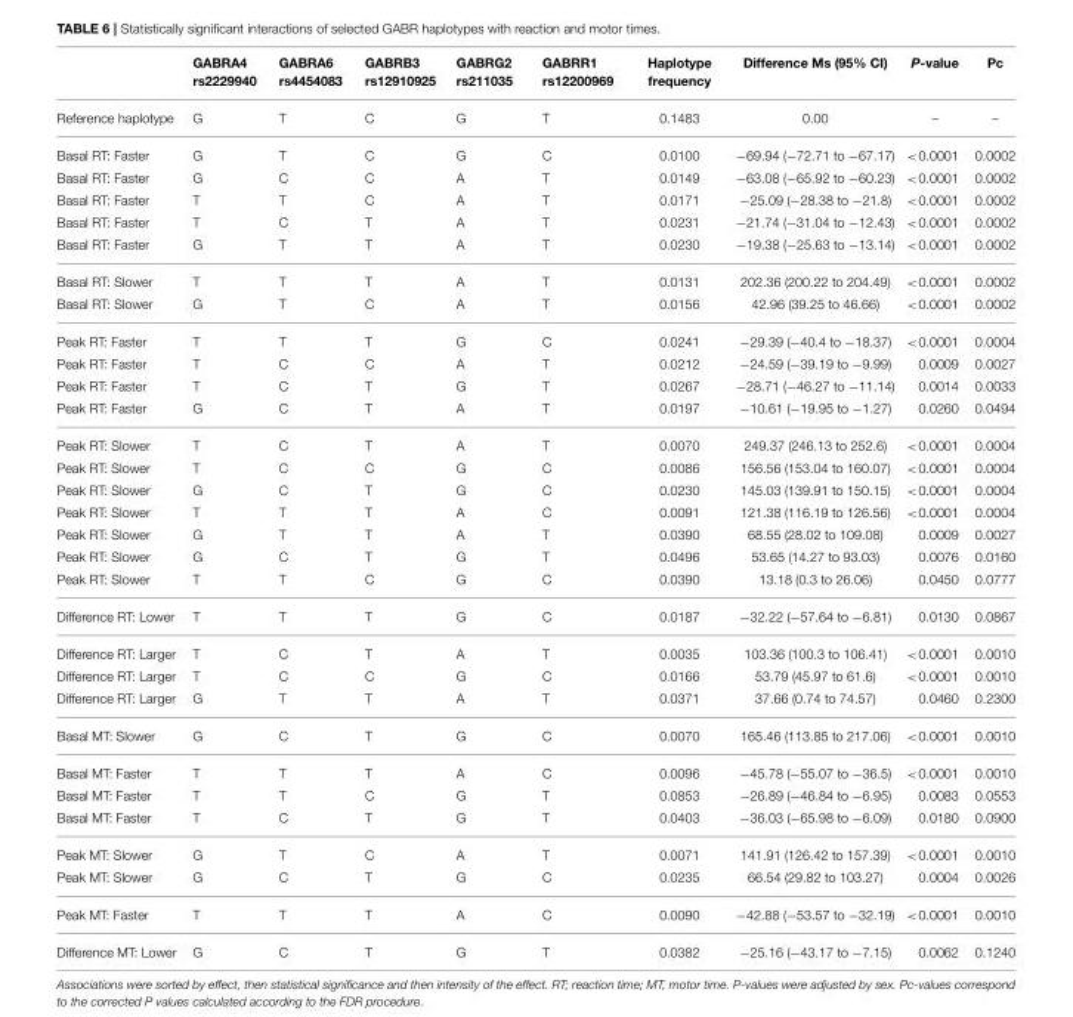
<table><thead><tr><td></td><td>GABRA4 rs2229940</td><td>GABRA6 rs4454083</td><td>GABRB3 rs12910925</td><td>GABRG2 rs211035</td><td>GABRR1 rs12200969</td><td>Haplotype frequency</td><td>Difference Ms (95% CI)</td><td>P-value</td><td>Pc</td></tr></thead><tbody><tr><td>Reference haplotype</td><td>G</td><td>T</td><td>C</td><td>G</td><td>T</td><td>0.1483</td><td>0.00</td><td>–</td><td>–</td></tr><tr><td>Basal RT: Faster</td><td>G</td><td>T</td><td>C</td><td>G</td><td>C</td><td>0.0100</td><td>−69.94 (−72.71 to −67.17)</td><td>&lt;0.0001</td><td>0.0002</td></tr><tr><td>Basal RT: Faster</td><td>G</td><td>C</td><td>C</td><td>A</td><td>T</td><td>0.0149</td><td>−63.08 (−65.92 to −60.23)</td><td>&lt;0.0001</td><td>0.0002</td></tr><tr><td>Basal RT: Faster</td><td>T</td><td>T</td><td>C</td><td>A</td><td>T</td><td>0.0171</td><td>−25.09 (−28.38 to −21.8)</td><td>&lt;0.0001</td><td>0.0002</td></tr><tr><td>Basal RT: Faster</td><td>T</td><td>C</td><td>T</td><td>A</td><td>T</td><td>0.0231</td><td>−21.74 (−31.04 to −12.43)</td><td>&lt;0.0001</td><td>0.0002</td></tr><tr><td>Basal RT: Faster</td><td>G</td><td>T</td><td>T</td><td>A</td><td>T</td><td>0.0230</td><td>−19.38 (−25.63 to −13.14)</td><td>&lt;0.0001</td><td>0.0002</td></tr><tr><td>Basal RT: Slower</td><td>T</td><td>T</td><td>T</td><td>A</td><td>T</td><td>0.0131</td><td>202.36 (200.22 to 204.49)</td><td>&lt;0.0001</td><td>0.0002</td></tr><tr><td>Basal RT: Slower</td><td>G</td><td>T</td><td>C</td><td>A</td><td>T</td><td>0.0156</td><td>42.96 (39.25 to 46.66)</td><td>&lt;0.0001</td><td>0.0002</td></tr><tr><td>Peak RT: Faster</td><td>T</td><td>T</td><td>T</td><td>G</td><td>C</td><td>0.0241</td><td>−29.39 (−40.4 to −18.37)</td><td>&lt;0.0001</td><td>0.0004</td></tr><tr><td>Peak RT: Faster</td><td>T</td><td>C</td><td>C</td><td>A</td><td>T</td><td>0.0212</td><td>−24.59 (−39.19 to −9.99)</td><td>0.0009</td><td>0.0027</td></tr><tr><td>Peak RT: Faster</td><td>T</td><td>C</td><td>T</td><td>G</td><td>T</td><td>0.0267</td><td>−28.71 (−46.27 to −11.14)</td><td>0.0014</td><td>0.0033</td></tr><tr><td>Peak RT: Faster</td><td>G</td><td>C</td><td>T</td><td>A</td><td>T</td><td>0.0197</td><td>−10.61 (−19.95 to −1.27)</td><td>0.0260</td><td>0.0494</td></tr><tr><td>Peak RT: Slower</td><td>T</td><td>C</td><td>T</td><td>A</td><td>T</td><td>0.0070</td><td>249.37 (246.13 to 252.6)</td><td>&lt;0.0001</td><td>0.0004</td></tr><tr><td>Peak RT: Slower</td><td>T</td><td>C</td><td>C</td><td>G</td><td>C</td><td>0.0086</td><td>156.56 (153.04 to 160.07)</td><td>&lt;0.0001</td><td>0.0004</td></tr><tr><td>Peak RT: Slower</td><td>G</td><td>C</td><td>T</td><td>G</td><td>C</td><td>0.0230</td><td>145.03 (139.91 to 150.15)</td><td>&lt;0.0001</td><td>0.0004</td></tr><tr><td>Peak RT: Slower</td><td>T</td><td>T</td><td>T</td><td>A</td><td>C</td><td>0.0091</td><td>121.38 (116.19 to 126.56)</td><td>&lt;0.0001</td><td>0.0004</td></tr><tr><td>Peak RT: Slower</td><td>G</td><td>T</td><td>T</td><td>A</td><td>T</td><td>0.0390</td><td>68.55 (28.02 to 109.08)</td><td>0.0009</td><td>0.0027</td></tr><tr><td>Peak RT: Slower</td><td>G</td><td>C</td><td>T</td><td>G</td><td>T</td><td>0.0496</td><td>53.65 (14.27 to 93.03)</td><td>0.0076</td><td>0.0160</td></tr><tr><td>Peak RT: Slower</td><td>T</td><td>T</td><td>C</td><td>G</td><td>C</td><td>0.0390</td><td>13.18 (0.3 to 26.06)</td><td>0.0450</td><td>0.0777</td></tr><tr><td>Difference RT: Lower</td><td>T</td><td>T</td><td>T</td><td>G</td><td>C</td><td>0.0187</td><td>−32.22 (−57.64 to −6.81)</td><td>0.0130</td><td>0.0867</td></tr><tr><td>Difference RT: Larger</td><td>T</td><td>C</td><td>T</td><td>A</td><td>T</td><td>0.0035</td><td>103.36 (100.3 to 106.41)</td><td>&lt;0.0001</td><td>0.0010</td></tr><tr><td>Difference RT: Larger</td><td>T</td><td>C</td><td>C</td><td>G</td><td>C</td><td>0.0166</td><td>53.79 (45.97 to 61.6)</td><td>&lt;0.0001</td><td>0.0010</td></tr><tr><td>Difference RT: Larger</td><td>G</td><td>T</td><td>T</td><td>A</td><td>T</td><td>0.0371</td><td>37.66 (0.74 to 74.57)</td><td>0.0460</td><td>0.2300</td></tr><tr><td>Basal MT: Slower</td><td>G</td><td>C</td><td>T</td><td>G</td><td>C</td><td>0.0070</td><td>165.46 (113.85 to 217.06)</td><td>&lt;0.0001</td><td>0.0010</td></tr><tr><td>Basal MT: Faster</td><td>T</td><td>T</td><td>T</td><td>A</td><td>C</td><td>0.0096</td><td>−45.78 (−55.07 to −36.5)</td><td>&lt;0.0001</td><td>0.0010</td></tr><tr><td>Basal MT: Faster</td><td>T</td><td>T</td><td>C</td><td>G</td><td>T</td><td>0.0853</td><td>−26.89 (−46.84 to −6.95)</td><td>0.0083</td><td>0.0553</td></tr><tr><td>Basal MT: Faster</td><td>T</td><td>C</td><td>T</td><td>G</td><td>T</td><td>0.0403</td><td>−36.03 (−65.98 to −6.09)</td><td>0.0180</td><td>0.0900</td></tr><tr><td>Peak MT: Slower</td><td>G</td><td>T</td><td>C</td><td>A</td><td>T</td><td>0.0071</td><td>141.91 (126.42 to 157.39)</td><td>&lt;0.0001</td><td>0.0010</td></tr><tr><td>Peak MT: Slower</td><td>G</td><td>C</td><td>T</td><td>G</td><td>C</td><td>0.0235</td><td>66.54 (29.82 to 103.27)</td><td>0.0004</td><td>0.0026</td></tr><tr><td>Peak MT: Faster</td><td>T</td><td>T</td><td>T</td><td>A</td><td>C</td><td>0.0090</td><td>−42.88 (−53.57 to −32.19)</td><td>&lt;0.0001</td><td>0.0010</td></tr><tr><td>Difference MT: Lower</td><td>G</td><td>C</td><td>T</td><td>G</td><td>T</td><td>0.0382</td><td>−25.16 (−43.17 to −7.15)</td><td>0.0062</td><td>0.1240</td></tr></tbody></table>